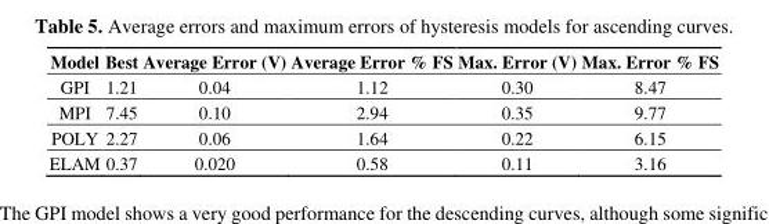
<table><thead><tr><td>Model</td><td>Best</td><td>Average Error (V)</td><td>Average Error % FS</td><td>Max. Error (V)</td><td>Max. Error % FS</td></tr></thead><tbody><tr><td>GPI</td><td>1.21</td><td>0.04</td><td>1.12</td><td>0.30</td><td>8.47</td></tr><tr><td>MPI</td><td>7.45</td><td>0.10</td><td>2.94</td><td>0.35</td><td>9.77</td></tr><tr><td>POLY</td><td>2.27</td><td>0.06</td><td>1.64</td><td>0.22</td><td>6.15</td></tr><tr><td>ELAM</td><td>0.37</td><td>0.020</td><td>0.58</td><td>0.11</td><td>3.16</td></tr></tbody></table>